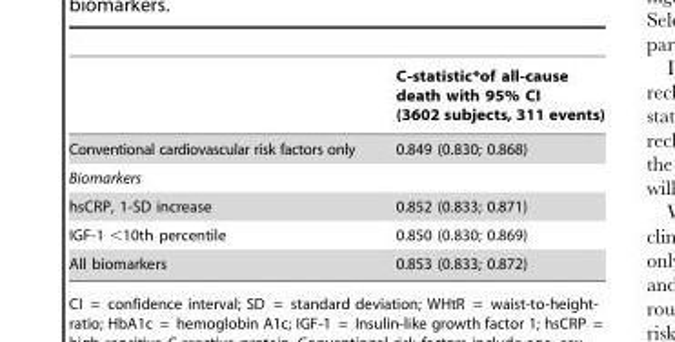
<table><thead><tr><td></td><td>C-statistic*of all-cause death with 95% CI (3602 subjects, 311 events)</td></tr></thead><tbody><tr><td>Conventional cardiovascular risk factors only</td><td>0.849 (0.830; 0.868)</td></tr><tr><td colspan="2">Biomarkers</td></tr><tr><td>hsCRP, 1-SD increase</td><td>0.852 (0.833; 0.871)</td></tr><tr><td>IGF-1 &lt;10th percentile</td><td>0.850 (0.830; 0.869)</td></tr><tr><td>All biomarkers</td><td>0.853 (0.833; 0.872)</td></tr></tbody></table>